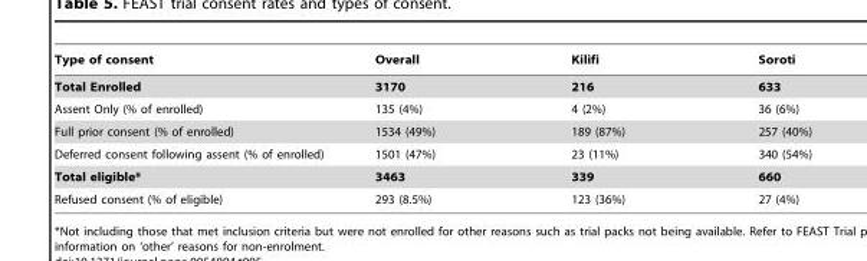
<table><thead><tr><td>Type of consent</td><td>Overall</td><td>Kilifi</td><td>Soroti</td></tr></thead><tbody><tr><td>Total Enrolled</td><td>3170</td><td>216</td><td>633</td></tr><tr><td>Assent Only (% of enrolled)</td><td>135 (4%)</td><td>4 (2%)</td><td>36 (6%)</td></tr><tr><td>Full prior consent (% of enrolled)</td><td>1534 (49%)</td><td>189 (87%)</td><td>257 (40%)</td></tr><tr><td>Deferred consent following assent (% of enrolled)</td><td>1501 (47%)</td><td>23 (11%)</td><td>340 (54%)</td></tr><tr><td>Total eligible*</td><td>3463</td><td>339</td><td>660</td></tr><tr><td>Refused consent (% of eligible)</td><td>293 (8.5%)</td><td>123 (36%)</td><td>27 (4%)</td></tr></tbody></table>